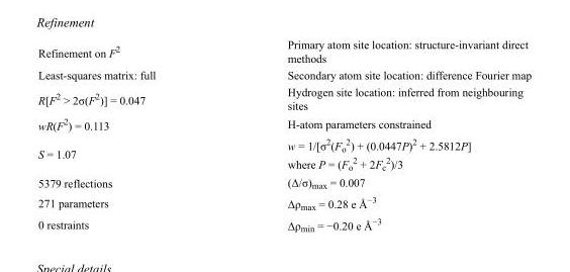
<table><tbody><tr><td>Refinement on F<sup>2</sup></td><td>Primary atom site location: structure-invariant direct methods</td></tr><tr><td>Least-squares matrix: full</td><td>Secondary atom site location: difference Fourier map</td></tr><tr><td>R[F<sup>2</sup> &gt; 2σ(F<sup>2</sup>)] = 0.047</td><td>Hydrogen site location: inferred from neighbouring sites</td></tr><tr><td>wR(F<sup>2</sup>) = 0.113</td><td>H-atom parameters constrained</td></tr><tr><td>S = 1.07</td><td>w = 1/[σ<sup>2</sup>(F<sub>o</sub> <sup>2</sup>) + (0.0447P)<sup>2</sup> + 2.5812P] where P = (F<sub>o</sub> <sup>2</sup> + 2F<sub>c</sub> <sup>2</sup>)/3</td></tr><tr><td>5379 reflections</td><td>(Δ/σ)<sub>max</sub> = 0.007</td></tr><tr><td>271 parameters</td><td>Δρ<sub>max</sub> = 0.28 e Å<sup>−3</sup></td></tr><tr><td>0 restraints</td><td>Δρ<sub>min</sub> = −0.20 e Å<sup>−3</sup></td></tr></tbody></table>